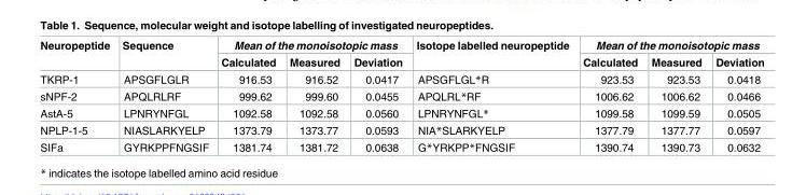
<table><thead><tr><td rowspan="2">Neuropeptide</td><td rowspan="2">Sequence</td><td colspan="3">Mean of the monoisotopic mass</td><td rowspan="2">Isotope labelled neuropeptide</td><td colspan="3">Mean of the monoisotopic mass</td></tr><tr><td>Calculated</td><td>Measured</td><td>Deviation</td><td>Calculated</td><td>Measured</td><td>Deviation</td></tr></thead><tbody><tr><td>TKRP-1</td><td>APSGFLGLR</td><td>916.53</td><td>916.52</td><td>0.0417</td><td>APSGFLGL*R</td><td>923.53</td><td>923.53</td><td>0.0418</td></tr><tr><td>sNPF-2</td><td>APQLRLRF</td><td>999.62</td><td>999.60</td><td>0.0455</td><td>APQLRL*RF</td><td>1006.62</td><td>1006.62</td><td>0.0466</td></tr><tr><td>AstA-5</td><td>LPNRYNFGL</td><td>1092.58</td><td>1092.58</td><td>0.0560</td><td>LPNRYNFGL*</td><td>1099.58</td><td>1099.59</td><td>0.0505</td></tr><tr><td>NPLP-1-5</td><td>NIASLARKYELP</td><td>1373.79</td><td>1373.77</td><td>0.0593</td><td>NIA*SLARKYELP</td><td>1377.79</td><td>1377.77</td><td>0.0597</td></tr><tr><td>SIFa</td><td>GYRKPPFNGSIF</td><td>1381.74</td><td>1381.72</td><td>0.0638</td><td>G*YRKPP*FNGSIF</td><td>1390.74</td><td>1390.73</td><td>0.0632</td></tr></tbody></table>